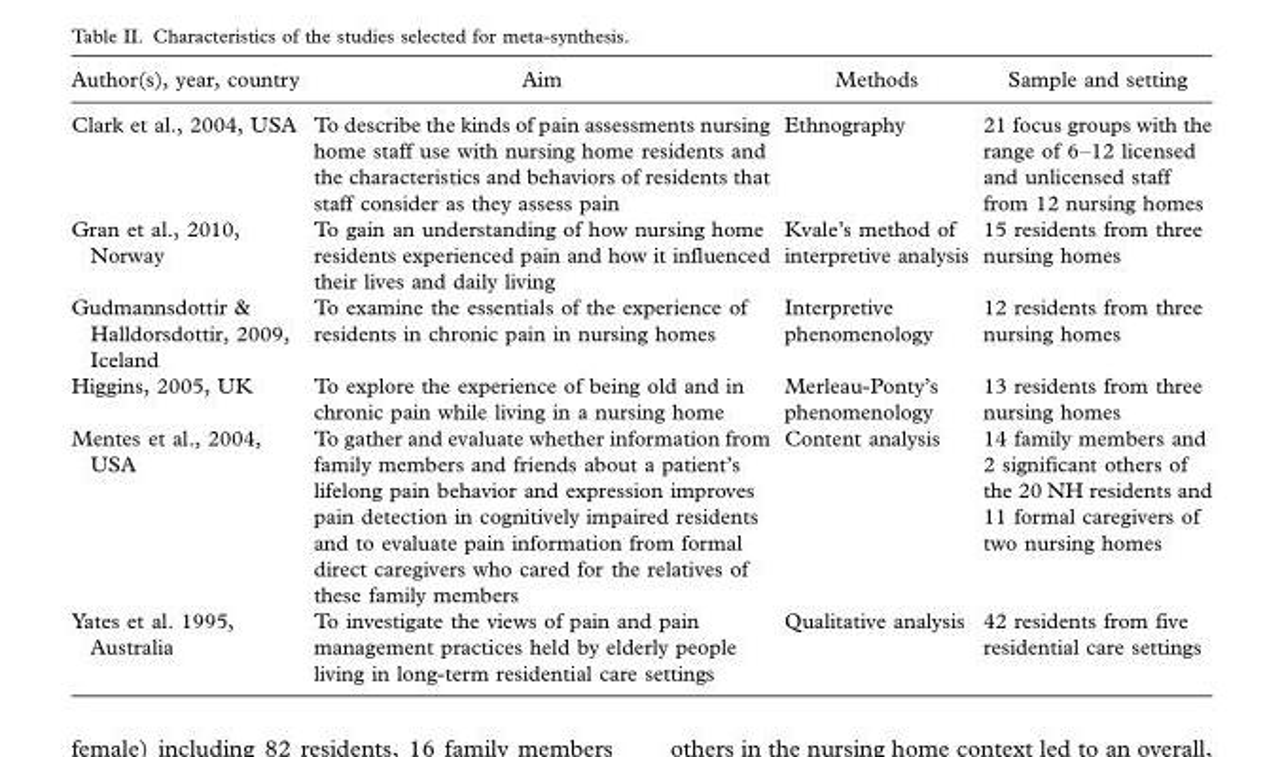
<table><thead><tr><td>Author(s), year, country</td><td>Aim</td><td>Methods</td><td>Sample and setting</td></tr></thead><tbody><tr><td>Clark et al., 2004, USA</td><td>To describe the kinds of pain assessments nursing home staff use with nursing home residents and the characteristics and behaviors of residents that staff consider as they assess pain</td><td>Ethnography</td><td>21 focus groups with the range of 6–12 licensed and unlicensed staff from 12 nursing homes</td></tr><tr><td>Gran et al., 2010, Norway</td><td>To gain an understanding of how nursing home residents experienced pain and how it influenced their lives and daily living</td><td>Kvale’s method of interpretive analysis</td><td>15 residents from three nursing homes</td></tr><tr><td>Gudmannsdottir &amp; Halldorsdottir, 2009, Iceland</td><td>To examine the essentials of the experience of residents in chronic pain in nursing homes</td><td>Interpretive phenomenology</td><td>12 residents from three nursing homes</td></tr><tr><td>Higgins, 2005, UK</td><td>To explore the experience of being old and in chronic pain while living in a nursing home</td><td>Merleau-Ponty’s phenomenology</td><td>13 residents from three nursing homes</td></tr><tr><td>Mentes et al., 2004, USA</td><td>To gather and evaluate whether information from family members and friends about a patient’s lifelong pain behavior and expression improves pain detection in cognitively impaired residents and to evaluate pain information from formal direct caregivers who cared for the relatives of these family members</td><td>Content analysis</td><td>14 family members and 2 significant others of the 20 NH residents and 11 formal caregivers of two nursing homes</td></tr><tr><td>Yates et al. 1995, Australia</td><td>To investigate the views of pain and pain management practices held by elderly people living in long-term residential care settings</td><td>Qualitative analysis</td><td>42 residents from five residential care settings</td></tr></tbody></table>